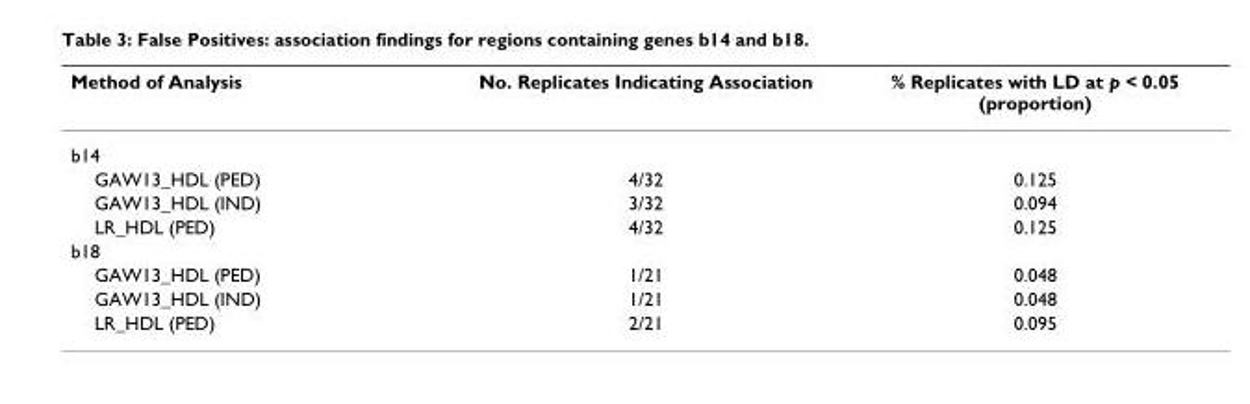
<table><thead><tr><td>Method of Analysis</td><td>No. Replicates Indicating Association</td><td>% Replicates with LD at p &lt; 0.05 (proportion)</td></tr></thead><tbody><tr><td colspan="3">b14</td></tr><tr><td>GAW13_HDL (PED)</td><td>4/32</td><td>0.125</td></tr><tr><td>GAW13_HDL (IND)</td><td>3/32</td><td>0.094</td></tr><tr><td>LR_HDL (PED)</td><td>4/32</td><td>0.125</td></tr><tr><td colspan="3">b18</td></tr><tr><td>GAW13_HDL (PED)</td><td>1/21</td><td>0.048</td></tr><tr><td>GAW13_HDL (IND)</td><td>1/21</td><td>0.048</td></tr><tr><td>LR_HDL (PED)</td><td>2/21</td><td>0.095</td></tr></tbody></table>